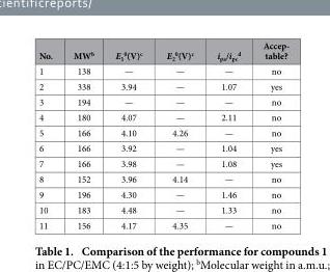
<table><thead><tr><td>No.</td><td>MW<sup>b</sup></td><td>E<sub>1</sub> <sup>0</sup>(V)<sup>c</sup></td><td>E<sub>2</sub> <sup>0</sup>(V)<sup>c</sup></td><td>i<sub>pa</sub>/i<sub>pc</sub> <sup>d</sup></td><td>Accep- table?</td></tr></thead><tbody><tr><td>1</td><td>138</td><td>—</td><td>—</td><td>—</td><td>no</td></tr><tr><td>2</td><td>338</td><td>3.94</td><td>—</td><td>1.07</td><td>yes</td></tr><tr><td>3</td><td>194</td><td>—</td><td>—</td><td>—</td><td>no</td></tr><tr><td>4</td><td>180</td><td>4.07</td><td>—</td><td>2.11</td><td>no</td></tr><tr><td>5</td><td>166</td><td>4.10</td><td>4.26</td><td>—</td><td>no</td></tr><tr><td>6</td><td>166</td><td>3.92</td><td>—</td><td>1.04</td><td>yes</td></tr><tr><td>7</td><td>166</td><td>3.98</td><td>—</td><td>1.08</td><td>yes</td></tr><tr><td>8</td><td>152</td><td>3.96</td><td>4.14</td><td>—</td><td>no</td></tr><tr><td>9</td><td>196</td><td>4.30</td><td>—</td><td>1.46</td><td>no</td></tr><tr><td>10</td><td>183</td><td>4.48</td><td>—</td><td>1.33</td><td>no</td></tr><tr><td>11</td><td>156</td><td>4.17</td><td>4.35</td><td>—</td><td>no</td></tr></tbody></table>